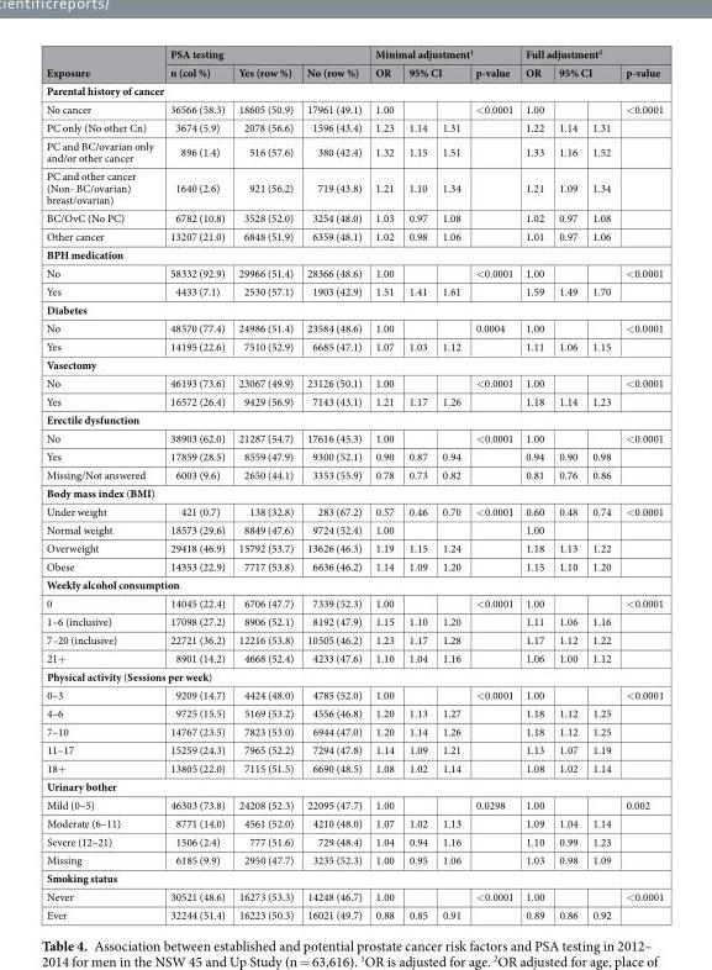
<table><thead><tr><td rowspan="2">Exposure</td><td colspan="3">PSA testing</td><td colspan="4">Minimal adjustment<sup>1</sup></td><td colspan="4">Full adjustment<sup>2</sup></td></tr><tr><td>n (col %)</td><td>Yes (row %)</td><td>No (row %)</td><td>OR</td><td colspan="2">95% CI</td><td>p-value</td><td>OR</td><td colspan="2">95% CI</td><td>p-value</td></tr><tr><td colspan="12">Parental history of cancer</td></tr><tr><td>No cancer</td><td>36566 (58.3)</td><td>18605 (50.9)</td><td>17961 (49.1)</td><td>1.00</td><td></td><td></td><td>&lt;0.0001</td><td>1.00</td><td></td><td></td><td>&lt;0.0001</td></tr></thead><tbody><tr><td>PC only (No other Cn)</td><td>3674 (5.9)</td><td>2078 (56.6)</td><td>1596 (43.4)</td><td>1.23</td><td>1.14</td><td>1.31</td><td></td><td>1.22</td><td>1.14</td><td>1.31</td><td></td></tr><tr><td>PC and BC/ovarian only and/or other cancer</td><td>896 (1.4)</td><td>516 (57.6)</td><td>380 (42.4)</td><td>1.32</td><td>1.15</td><td>1.51</td><td></td><td>1.33</td><td>1.16</td><td>1.52</td><td></td></tr><tr><td>PC and other cancer (Non- BC/ovarian) breast/ovarian)</td><td>1640 (2.6)</td><td>921 (56.2)</td><td>719 (43.8)</td><td>1.21</td><td>1.10</td><td>1.34</td><td></td><td>1.21</td><td>1.09</td><td>1.34</td><td></td></tr><tr><td>BC/OvC (No PC)</td><td>6782 (10.8)</td><td>3528 (52.0)</td><td>3254 (48.0)</td><td>1.03</td><td>0.97</td><td>1.08</td><td></td><td>1.02</td><td>0.97</td><td>1.08</td><td></td></tr><tr><td>Other cancer</td><td>13207 (21.0)</td><td>6848 (51.9)</td><td>6359 (48.1)</td><td>1.02</td><td>0.98</td><td>1.06</td><td></td><td>1.01</td><td>0.97</td><td>1.06</td><td></td></tr><tr><td colspan="12">BPH medication</td></tr><tr><td>No</td><td>58332 (92.9)</td><td>29966 (51.4)</td><td>28366 (48.6)</td><td>1.00</td><td></td><td></td><td>&lt;0.0001</td><td>1.00</td><td></td><td></td><td>&lt;0.0001</td></tr><tr><td>Yes</td><td>4433 (7.1)</td><td>2530 (57.1)</td><td>1903 (42.9)</td><td>1.51</td><td>1.41</td><td>1.61</td><td></td><td>1.59</td><td>1.49</td><td>1.70</td><td></td></tr><tr><td colspan="12">Diabetes</td></tr><tr><td>No</td><td>48570 (77.4)</td><td>24986 (51.4)</td><td>23584 (48.6)</td><td>1.00</td><td></td><td></td><td>0.0004</td><td>1.00</td><td></td><td></td><td>&lt;0.0001</td></tr><tr><td>Yes</td><td>14195 (22.6)</td><td>7510 (52.9)</td><td>6685 (47.1)</td><td>1.07</td><td>1.03</td><td>1.12</td><td></td><td>1.11</td><td>1.06</td><td>1.15</td><td></td></tr><tr><td colspan="12">Vasectomy</td></tr><tr><td>No</td><td>46193 (73.6)</td><td>23067 (49.9)</td><td>23126 (50.1)</td><td>1.00</td><td></td><td></td><td>&lt;0.0001</td><td>1.00</td><td></td><td></td><td>&lt;0.0001</td></tr><tr><td>Yes</td><td>16572 (26.4)</td><td>9429 (56.9)</td><td>7143 (43.1)</td><td>1.21</td><td>1.17</td><td>1.26</td><td></td><td>1.18</td><td>1.14</td><td>1.23</td><td></td></tr><tr><td colspan="12">Erectile dysfunction</td></tr><tr><td>No</td><td>38903 (62.0)</td><td>21287 (54.7)</td><td>17616 (45.3)</td><td>1.00</td><td></td><td></td><td>&lt;0.0001</td><td>1.00</td><td></td><td></td><td>&lt;0.0001</td></tr><tr><td>Yes</td><td>17859 (28.5)</td><td>8559 (47.9)</td><td>9300 (52.1)</td><td>0.90</td><td>0.87</td><td>0.94</td><td></td><td>0.94</td><td>0.90</td><td>0.98</td><td></td></tr><tr><td>Missing/Not answered</td><td>6003 (9.6)</td><td>2650 (44.1)</td><td>3353 (55.9)</td><td>0.78</td><td>0.73</td><td>0.82</td><td></td><td>0.81</td><td>0.76</td><td>0.86</td><td></td></tr><tr><td colspan="12">Body mass index (BMI)</td></tr><tr><td>Under weight</td><td>421 (0.7)</td><td>138 (32.8)</td><td>283 (67.2)</td><td>0.57</td><td>0.46</td><td>0.70</td><td>&lt;0.0001</td><td>0.60</td><td>0.48</td><td>0.74</td><td>&lt;0.0001</td></tr><tr><td>Normal weight</td><td>18573 (29.6)</td><td>8849 (47.6)</td><td>9724 (52.4)</td><td>1.00</td><td></td><td></td><td></td><td>1.00</td><td></td><td></td><td></td></tr><tr><td>Overweight</td><td>29418 (46.9)</td><td>15792 (53.7)</td><td>13626 (46.3)</td><td>1.19</td><td>1.15</td><td>1.24</td><td></td><td>1.18</td><td>1.13</td><td>1.22</td><td></td></tr><tr><td>Obese</td><td>14353 (22.9)</td><td>7717 (53.8)</td><td>6636 (46.2)</td><td>1.14</td><td>1.09</td><td>1.20</td><td></td><td>1.15</td><td>1.10</td><td>1.20</td><td></td></tr><tr><td colspan="12">Weekly alcohol consumption</td></tr><tr><td>0</td><td>14045 (22.4)</td><td>6706 (47.7)</td><td>7339 (52.3)</td><td>1.00</td><td></td><td></td><td>&lt;0.0001</td><td>1.00</td><td></td><td></td><td>&lt;0.0001</td></tr><tr><td>1–6 (inclusive)</td><td>17098 (27.2)</td><td>8906 (52.1)</td><td>8192 (47.9)</td><td>1.15</td><td>1.10</td><td>1.20</td><td></td><td>1.11</td><td>1.06</td><td>1.16</td><td></td></tr><tr><td>7–20 (inclusive)</td><td>22721 (36.2)</td><td>12216 (53.8)</td><td>10505 (46.2)</td><td>1.23</td><td>1.17</td><td>1.28</td><td></td><td>1.17</td><td>1.12</td><td>1.22</td><td></td></tr><tr><td>21+</td><td>8901 (14.2)</td><td>4668 (52.4)</td><td>4233 (47.6)</td><td>1.10</td><td>1.04</td><td>1.16</td><td></td><td>1.06</td><td>1.00</td><td>1.12</td><td></td></tr><tr><td colspan="12">Physical activity (Sessions per week)</td></tr><tr><td>0–3</td><td>9209 (14.7)</td><td>4424 (48.0)</td><td>4785 (52.0)</td><td>1.00</td><td></td><td></td><td>&lt;0.0001</td><td>1.00</td><td></td><td></td><td>&lt;0.0001</td></tr><tr><td>4–6</td><td>9725 (15.5)</td><td>5169 (53.2)</td><td>4556 (46.8)</td><td>1.20</td><td>1.13</td><td>1.27</td><td></td><td>1.18</td><td>1.12</td><td>1.25</td><td></td></tr><tr><td>7–10</td><td>14767 (23.5)</td><td>7823 (53.0)</td><td>6944 (47.0)</td><td>1.20</td><td>1.14</td><td>1.26</td><td></td><td>1.18</td><td>1.12</td><td>1.25</td><td></td></tr><tr><td>11–17</td><td>15259 (24.3)</td><td>7965 (52.2)</td><td>7294 (47.8)</td><td>1.14</td><td>1.09</td><td>1.21</td><td></td><td>1.13</td><td>1.07</td><td>1.19</td><td></td></tr><tr><td>18+</td><td>13805 (22.0)</td><td>7115 (51.5)</td><td>6690 (48.5)</td><td>1.08</td><td>1.02</td><td>1.14</td><td></td><td>1.08</td><td>1.02</td><td>1.14</td><td></td></tr><tr><td colspan="12">Urinary bother</td></tr><tr><td>Mild (0–5)</td><td>46303 (73.8)</td><td>24208 (52.3)</td><td>22095 (47.7)</td><td>1.00</td><td></td><td></td><td>0.0298</td><td>1.00</td><td></td><td></td><td>0.002</td></tr><tr><td>Moderate (6–11)</td><td>8771 (14.0)</td><td>4561 (52.0)</td><td>4210 (48.0)</td><td>1.07</td><td>1.02</td><td>1.13</td><td></td><td>1.09</td><td>1.04</td><td>1.14</td><td></td></tr><tr><td>Severe (12–21)</td><td>1506 (2.4)</td><td>777 (51.6)</td><td>729 (48.4)</td><td>1.04</td><td>0.94</td><td>1.16</td><td></td><td>1.10</td><td>0.99</td><td>1.23</td><td></td></tr><tr><td>Missing</td><td>6185 (9.9)</td><td>2950 (47.7)</td><td>3235 (52.3)</td><td>1.00</td><td>0.95</td><td>1.06</td><td></td><td>1.03</td><td>0.98</td><td>1.09</td><td></td></tr><tr><td colspan="12">Smoking status</td></tr><tr><td>Never</td><td>30521 (48.6)</td><td>16273 (53.3)</td><td>14248 (46.7)</td><td>1.00</td><td></td><td></td><td>&lt;0.0001</td><td>1.00</td><td></td><td></td><td>&lt;0.0001</td></tr><tr><td>Ever</td><td>32244 (51.4)</td><td>16223 (50.3)</td><td>16021 (49.7)</td><td>0.88</td><td>0.85</td><td>0.91</td><td></td><td>0.89</td><td>0.86</td><td>0.92</td><td></td></tr></tbody></table>